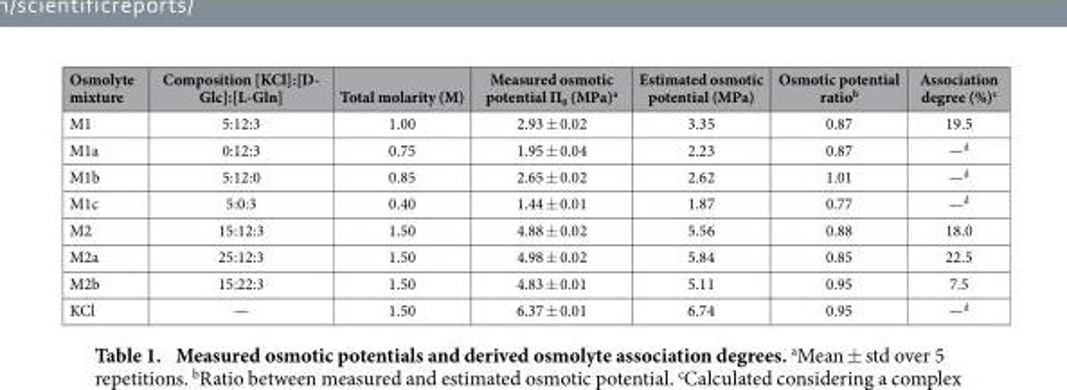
<table><thead><tr><td>Osmolyte mixture</td><td>Composition [KCl]:[D- Glc]:[L-Gln]</td><td>Total molarity (M)</td><td>Measured osmotic potential П<sub>0</sub> (MPa)<sup>a</sup></td><td>Estimated osmotic potential (MPa)</td><td>Osmotic potential ratio<sup>b</sup></td><td>Association degree (%)<sup>c</sup></td></tr></thead><tbody><tr><td>M1</td><td>5:12:3</td><td>1.00</td><td>2.93 ± 0.02</td><td>3.35</td><td>0.87</td><td>19.5</td></tr><tr><td>M1a</td><td>0:12:3</td><td>0.75</td><td>1.95 ± 0.04</td><td>2.23</td><td>0.87</td><td>—d</td></tr><tr><td>M1b</td><td>5:12:0</td><td>0.85</td><td>2.65 ± 0.02</td><td>2.62</td><td>1.01</td><td>—d</td></tr><tr><td>M1c</td><td>5:0:3</td><td>0.40</td><td>1.44 ± 0.01</td><td>1.87</td><td>0.77</td><td>—d</td></tr><tr><td>M2</td><td>15:12:3</td><td>1.50</td><td>4.88 ± 0.02</td><td>5.56</td><td>0.88</td><td>18.0</td></tr><tr><td>M2a</td><td>25:12:3</td><td>1.50</td><td>4.98 ± 0.02</td><td>5.84</td><td>0.85</td><td>22.5</td></tr><tr><td>M2b</td><td>15:22:3</td><td>1.50</td><td>4.83 ± 0.01</td><td>5.11</td><td>0.95</td><td>7.5</td></tr><tr><td>KCl</td><td>—</td><td>1.50</td><td>6.37 ± 0.01</td><td>6.74</td><td>0.95</td><td>—d</td></tr></tbody></table>